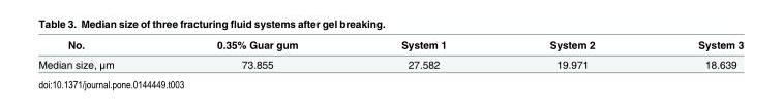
<table><thead><tr><td>No.</td><td>0.35% Guar gum</td><td>System 1</td><td>System 2</td><td>System 3</td></tr></thead><tbody><tr><td>Median size, μm</td><td>73.855</td><td>27.582</td><td>19.971</td><td>18.639</td></tr></tbody></table>